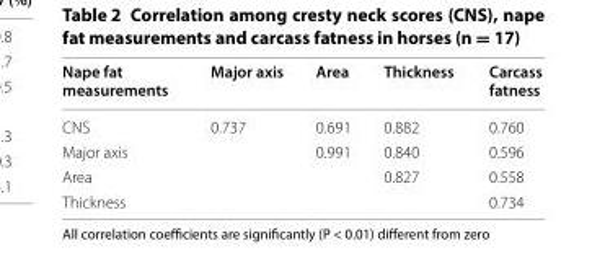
<table><thead><tr><td>Nape fat measurements</td><td>Major axis</td><td>Area</td><td>Thickness</td><td>Carcass fatness</td></tr></thead><tbody><tr><td>CNS</td><td>0.737</td><td>0.691</td><td>0.882</td><td>0.760</td></tr><tr><td>Major axis</td><td></td><td>0.991</td><td>0.840</td><td>0.596</td></tr><tr><td>Area</td><td></td><td></td><td>0.827</td><td>0.558</td></tr><tr><td>Thickness</td><td></td><td></td><td></td><td>0.734</td></tr></tbody></table>